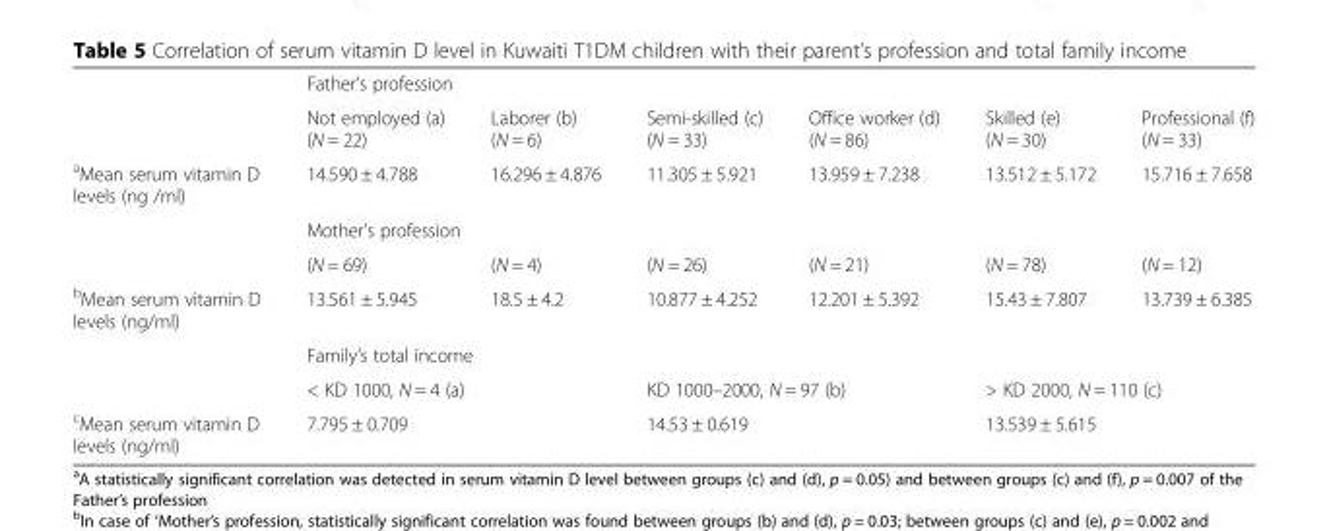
<table><thead><tr><td rowspan="2"></td><td colspan="6">Father’s profession</td></tr><tr><td>Not employed (a) (N = 22)</td><td>Laborer (b) (N = 6)</td><td>Semi-skilled (c) (N = 33)</td><td>Office worker (d) (N = 86)</td><td>Skilled (e) (N = 30)</td><td>Professional (f) (N = 33)</td></tr></thead><tbody><tr><td rowspan="3"><sup>a</sup>Mean serum vitamin D levels (ng /ml)</td><td>14.590 ± 4.788</td><td>16.296 ± 4.876</td><td>11.305 ± 5.921</td><td>13.959 ± 7.238</td><td>13.512 ± 5.172</td><td>15.716 ± 7.658</td></tr><tr><td colspan="6">Mother’s profession</td></tr><tr><td>(N = 69)</td><td>(N = 4)</td><td>(N = 26)</td><td>(N = 21)</td><td>(N = 78)</td><td>(N = 12)</td></tr><tr><td rowspan="3"><sup>b</sup>Mean serum vitamin D levels (ng/ml)</td><td>13.561 ± 5.945</td><td>18.5 ± 4.2</td><td>10.877 ± 4.252</td><td>12.201 ± 5.392</td><td>15.43 ± 7.807</td><td>13.739 ± 6.385</td></tr><tr><td colspan="6">Family’s total income</td></tr><tr><td colspan="2">&lt; KD 1000, N = 4 (a)</td><td colspan="2">KD 1000–2000, N = 97 (b)</td><td colspan="2">&gt; KD 2000, N = 110 (c)</td></tr><tr><td><sup>c</sup>Mean serum vitamin D levels (ng/ml)</td><td colspan="2">7.795 ± 0.709</td><td colspan="2">14.53 ± 0.619</td><td colspan="2">13.539 ± 5.615</td></tr></tbody></table>